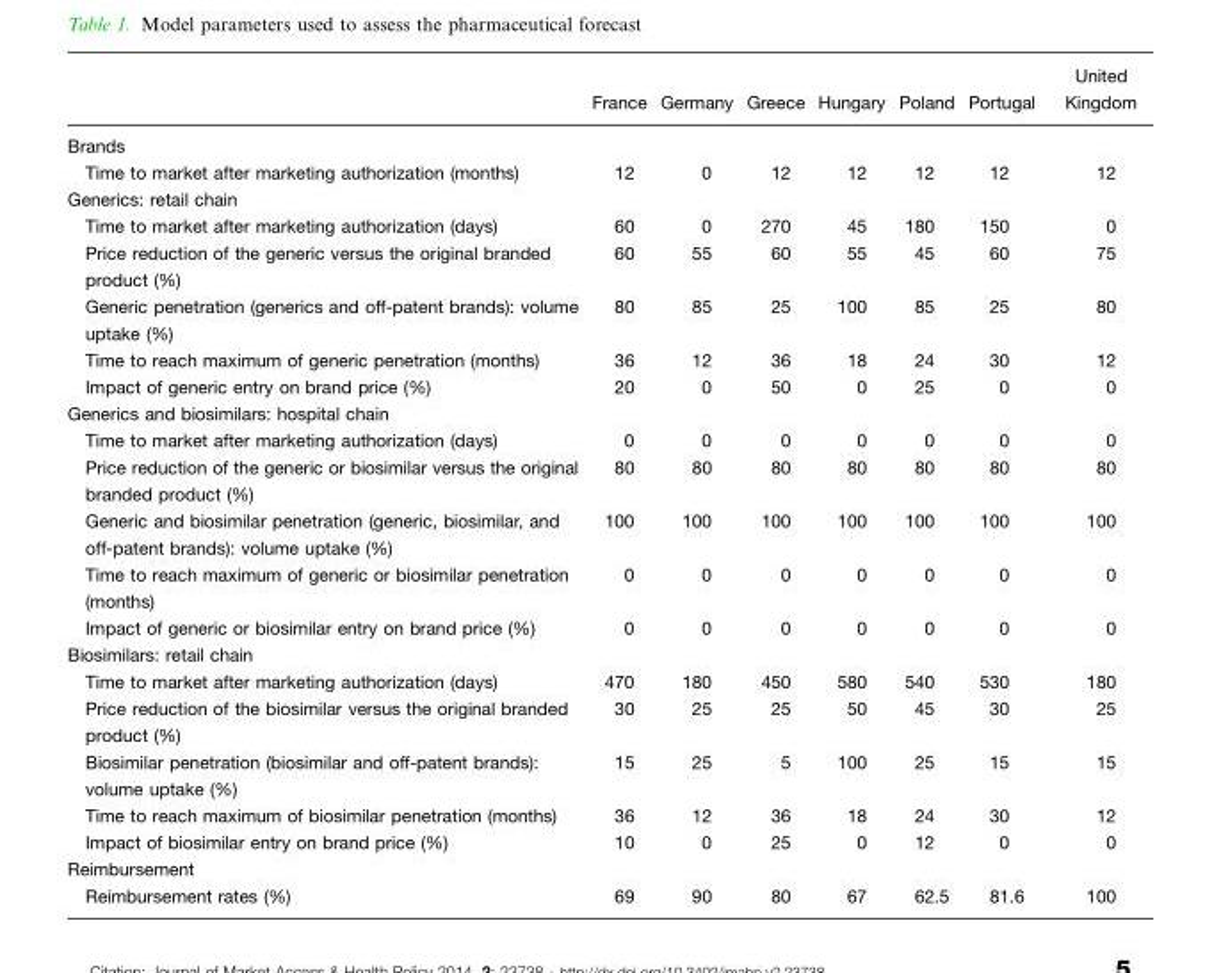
<table><thead><tr><td></td><td>France</td><td>Germany</td><td>Greece</td><td>Hungary</td><td>Poland</td><td>Portugal</td><td>United Kingdom</td></tr></thead><tbody><tr><td colspan="8">Brands</td></tr><tr><td>Time to market after marketing authorization (months)</td><td>12</td><td>0</td><td>12</td><td>12</td><td>12</td><td>12</td><td>12</td></tr><tr><td colspan="8">Generics: retail chain</td></tr><tr><td>Time to market after marketing authorization (days)</td><td>60</td><td>0</td><td>270</td><td>45</td><td>180</td><td>150</td><td>0</td></tr><tr><td>Price reduction of the generic versus the original branded product (%)</td><td>60</td><td>55</td><td>60</td><td>55</td><td>45</td><td>60</td><td>75</td></tr><tr><td>Generic penetration (generics and off-patent brands): volume uptake (%)</td><td>80</td><td>85</td><td>25</td><td>100</td><td>85</td><td>25</td><td>80</td></tr><tr><td>Time to reach maximum of generic penetration (months)</td><td>36</td><td>12</td><td>36</td><td>18</td><td>24</td><td>30</td><td>12</td></tr><tr><td>Impact of generic entry on brand price (%)</td><td>20</td><td>0</td><td>50</td><td>0</td><td>25</td><td>0</td><td>0</td></tr><tr><td colspan="8">Generics and biosimilars: hospital chain</td></tr><tr><td>Time to market after marketing authorization (days)</td><td>0</td><td>0</td><td>0</td><td>0</td><td>0</td><td>0</td><td>0</td></tr><tr><td>Price reduction of the generic or biosimilar versus the original branded product (%)</td><td>80</td><td>80</td><td>80</td><td>80</td><td>80</td><td>80</td><td>80</td></tr><tr><td>Generic and biosimilar penetration (generic, biosimilar, and off-patent brands): volume uptake (%)</td><td>100</td><td>100</td><td>100</td><td>100</td><td>100</td><td>100</td><td>100</td></tr><tr><td>Time to reach maximum of generic or biosimilar penetration (months)</td><td>0</td><td>0</td><td>0</td><td>0</td><td>0</td><td>0</td><td>0</td></tr><tr><td>Impact of generic or biosimilar entry on brand price (%)</td><td>0</td><td>0</td><td>0</td><td>0</td><td>0</td><td>0</td><td>0</td></tr><tr><td colspan="8">Biosimilars: retail chain</td></tr><tr><td>Time to market after marketing authorization (days)</td><td>470</td><td>180</td><td>450</td><td>580</td><td>540</td><td>530</td><td>180</td></tr><tr><td>Price reduction of the biosimilar versus the original branded product (%)</td><td>30</td><td>25</td><td>25</td><td>50</td><td>45</td><td>30</td><td>25</td></tr><tr><td>Biosimilar penetration (biosimilar and off-patent brands): volume uptake (%)</td><td>15</td><td>25</td><td>5</td><td>100</td><td>25</td><td>15</td><td>15</td></tr><tr><td>Time to reach maximum of biosimilar penetration (months)</td><td>36</td><td>12</td><td>36</td><td>18</td><td>24</td><td>30</td><td>12</td></tr><tr><td>Impact of biosimilar entry on brand price (%)</td><td>10</td><td>0</td><td>25</td><td>0</td><td>12</td><td>0</td><td>0</td></tr><tr><td colspan="8">Reimbursement</td></tr><tr><td>Reimbursement rates (%)</td><td>69</td><td>90</td><td>80</td><td>67</td><td>62.5</td><td>81.6</td><td>100</td></tr></tbody></table>